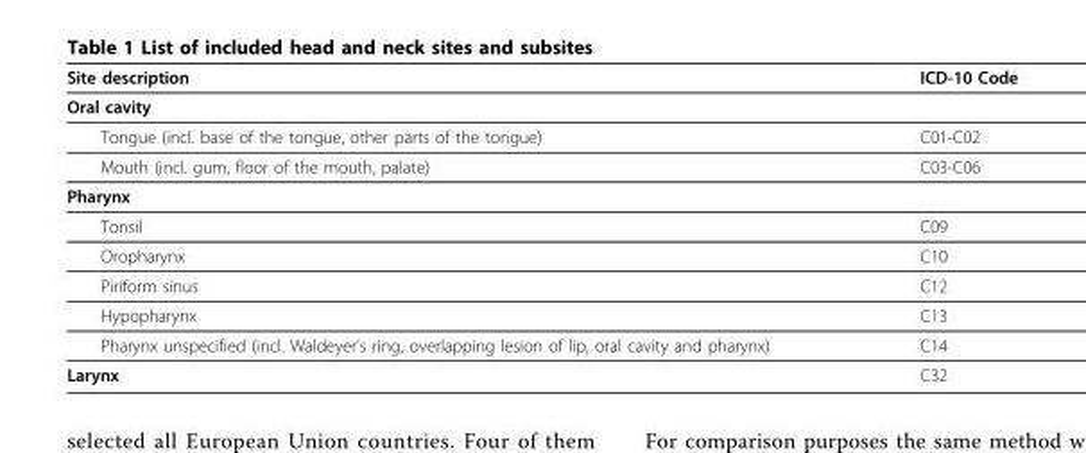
<table><thead><tr><td>Site description</td><td>ICD-10 Code</td></tr></thead><tbody><tr><td colspan="2">Oral cavity</td></tr><tr><td>Tongue (incl. base of the tongue, other parts of the tongue)</td><td>C01-C02</td></tr><tr><td>Mouth (incl. gum, floor of the mouth, palate)</td><td>C03-C06</td></tr><tr><td colspan="2">Pharynx</td></tr><tr><td>Tonsil</td><td>C09</td></tr><tr><td>Oropharynx</td><td>C10</td></tr><tr><td>Piriform sinus</td><td>C12</td></tr><tr><td>Hypopharynx</td><td>C13</td></tr><tr><td>Pharynx unspecified (incl. Waldeyer’s ring, overlapping lesion of lip, oral cavity and pharynx)</td><td>C14</td></tr><tr><td>Larynx</td><td>C32</td></tr></tbody></table>